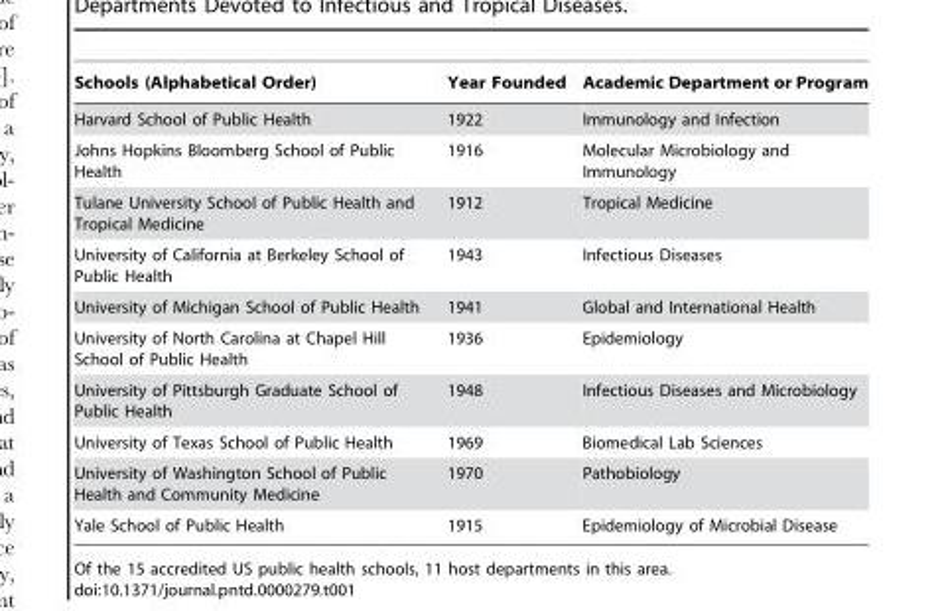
<table><thead><tr><td>Schools (Alphabetical Order)</td><td>Year Founded</td><td>Academic Department or Program</td></tr></thead><tbody><tr><td>Harvard School of Public Health</td><td>1922</td><td>Immunology and Infection</td></tr><tr><td>Johns Hopkins Bloomberg School of Public Health</td><td>1916</td><td>Molecular Microbiology and Immunology</td></tr><tr><td>Tulane University School of Public Health and Tropical Medicine</td><td>1912</td><td>Tropical Medicine</td></tr><tr><td>University of California at Berkeley School of Public Health</td><td>1943</td><td>Infectious Diseases</td></tr><tr><td>University of Michigan School of Public Health</td><td>1941</td><td>Global and International Health</td></tr><tr><td>University of North Carolina at Chapel Hill School of Public Health</td><td>1936</td><td>Epidemiology</td></tr><tr><td>University of Pittsburgh Graduate School of Public Health</td><td>1948</td><td>Infectious Diseases and Microbiology</td></tr><tr><td>University of Texas School of Public Health</td><td>1969</td><td>Biomedical Lab Sciences</td></tr><tr><td>University of Washington School of Public Health and Community Medicine</td><td>1970</td><td>Pathobiology</td></tr><tr><td>Yale School of Public Health</td><td>1915</td><td>Epidemiology of Microbial Disease</td></tr></tbody></table>